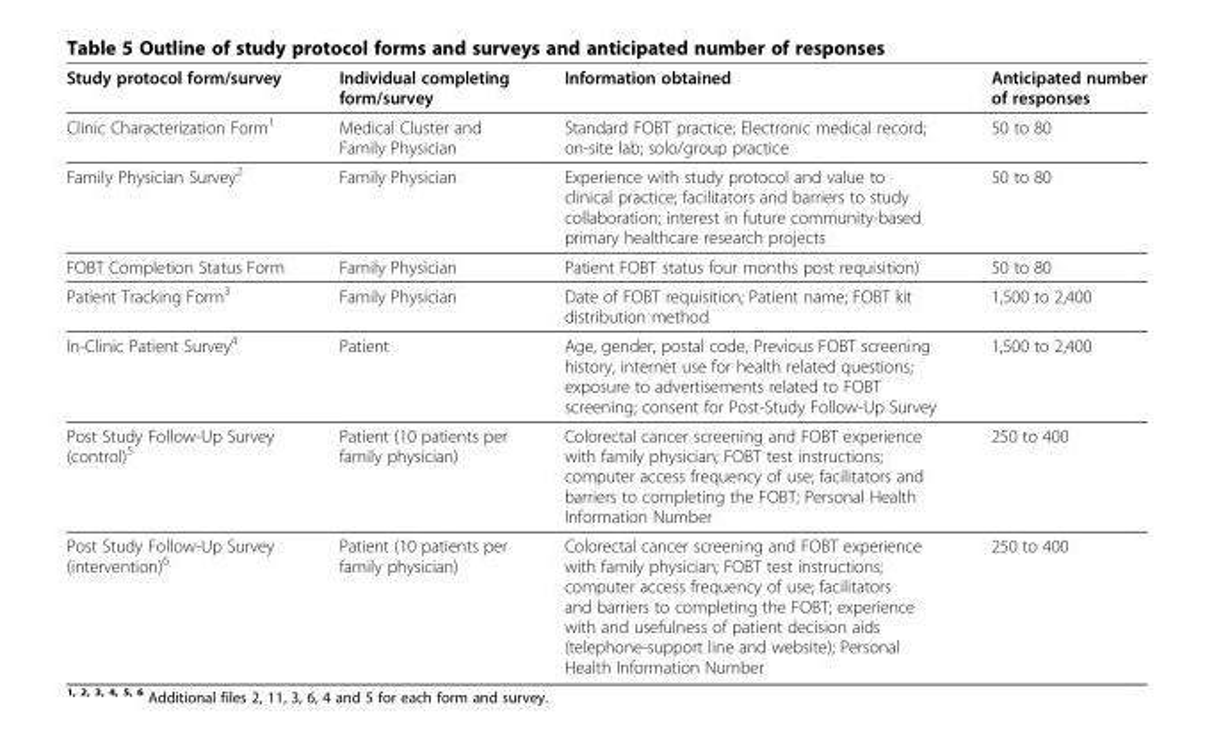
<table><thead><tr><td>Study protocol form/survey</td><td>Individual completing form/survey</td><td>Information obtained</td><td>Anticipated number of responses</td></tr></thead><tbody><tr><td>Clinic Characterization Form<sup>1</sup></td><td>Medical Cluster and Family Physician</td><td>Standard FOBT practice; Electronic medical record; on-site lab; solo/group practice</td><td>50 to 80</td></tr><tr><td>Family Physician Survey<sup>2</sup></td><td>Family Physician</td><td>Experience with study protocol and value to clinical practice; facilitators and barriers to study collaboration; interest in future community-based primary healthcare research projects</td><td>50 to 80</td></tr><tr><td>FOBT Completion Status Form</td><td>Family Physician</td><td>Patient FOBT status four months post requisition)</td><td>50 to 80</td></tr><tr><td>Patient Tracking Form<sup>3</sup></td><td>Family Physician</td><td>Date of FOBT requisition; Patient name; FOBT kit distribution method</td><td>1,500 to 2,400</td></tr><tr><td>In-Clinic Patient Survey<sup>4</sup></td><td>Patient</td><td>Age, gender, postal code, Previous FOBT screening history, internet use for health related questions; exposure to advertisements related to FOBT screening; consent for Post-Study Follow-Up Survey</td><td>1,500 to 2,400</td></tr><tr><td>Post Study Follow-Up Survey (control)<sup>5</sup></td><td>Patient (10 patients per family physician)</td><td>Colorectal cancer screening and FOBT experience with family physician; FOBT test instructions; computer access frequency of use; facilitators and barriers to completing the FOBT; Personal Health Information Number</td><td>250 to 400</td></tr><tr><td>Post Study Follow-Up Survey (intervention)<sup>6</sup></td><td>Patient (10 patients per family physician)</td><td>Colorectal cancer screening and FOBT experience with family physician; FOBT test instructions; computer access frequency of use; facilitators and barriers to completing the FOBT; experience with and usefulness of patient decision aids (telephone-support line and website); Personal Health Information Number</td><td>250 to 400</td></tr></tbody></table>